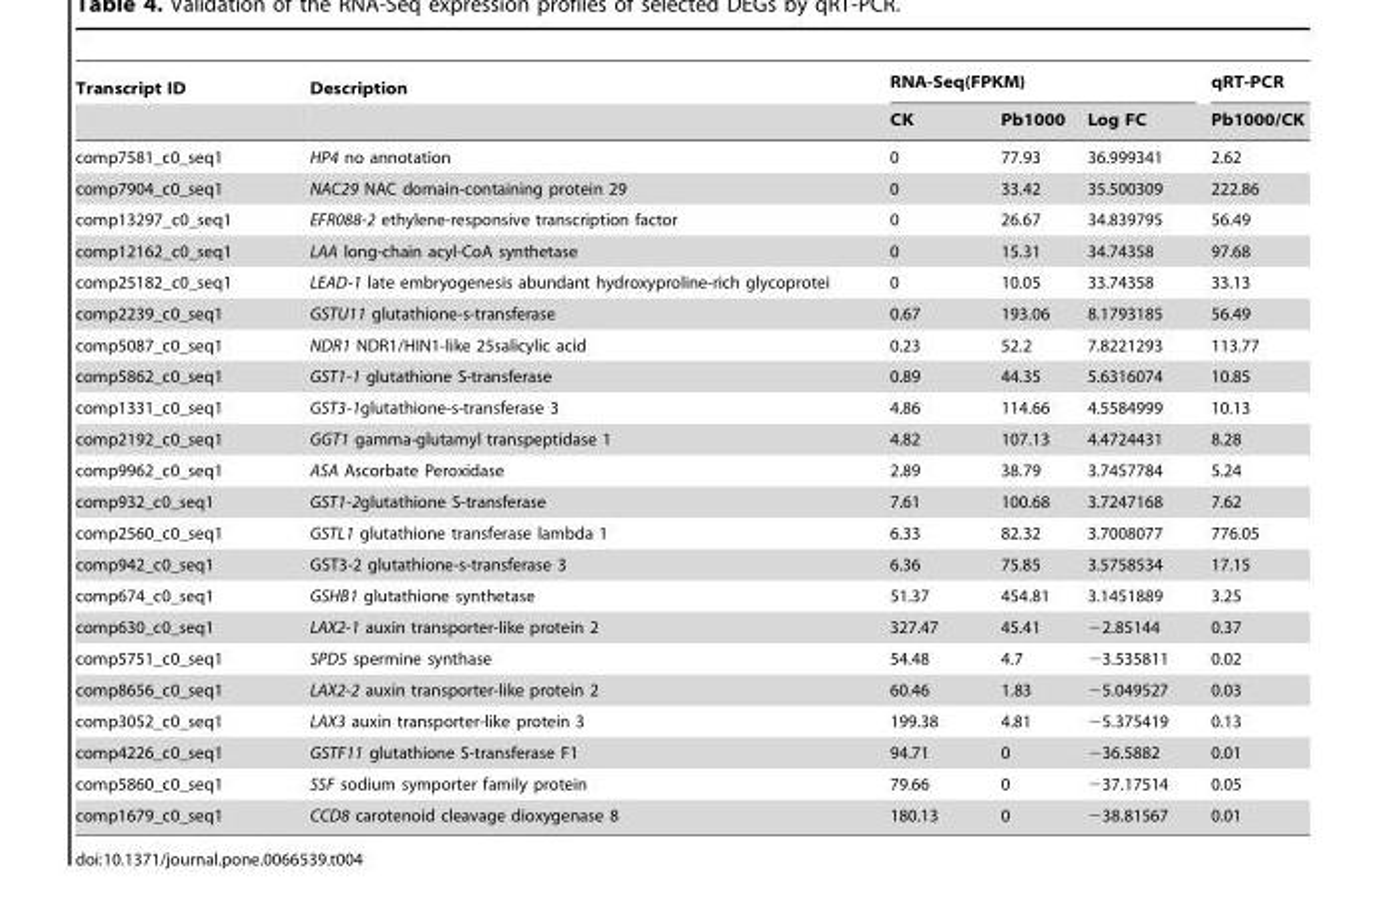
<table><thead><tr><td rowspan="2">Transcript ID</td><td rowspan="2">Description</td><td colspan="3">RNA-Seq(FPKM)</td><td rowspan="2">qRT-PCR Pb1000/CK</td></tr><tr><td>CK</td><td>Pb1000</td><td>Log FC</td></tr></thead><tbody><tr><td>comp7581_c0_seq1</td><td>HP4 no annotation</td><td>0</td><td>77.93</td><td>36.999341</td><td>2.62</td></tr><tr><td>comp7904_c0_seq1</td><td>NAC29 NAC domain-containing protein 29</td><td>0</td><td>33.42</td><td>35.500309</td><td>222.86</td></tr><tr><td>comp13297_c0_seq1</td><td>EFR088-2 ethylene-responsive transcription factor</td><td>0</td><td>26.67</td><td>34.839795</td><td>56.49</td></tr><tr><td>comp12162_c0_seq1</td><td>LAA long-chain acyl-CoA synthetase</td><td>0</td><td>15.31</td><td>34.74358</td><td>97.68</td></tr><tr><td>comp25182_c0_seq1</td><td>LEAD-1 late embryogenesis abundant hydroxyproline-rich glycoprotei</td><td>0</td><td>10.05</td><td>33.74358</td><td>33.13</td></tr><tr><td>comp2239_c0_seq1</td><td>GSTU11 glutathione-s-transferase</td><td>0.67</td><td>193.06</td><td>8.1793185</td><td>56.49</td></tr><tr><td>comp5087_c0_seq1</td><td>NDR1 NDR1/HIN1-like 25salicylic acid</td><td>0.23</td><td>52.2</td><td>7.8221293</td><td>113.77</td></tr><tr><td>comp5862_c0_seq1</td><td>GST1-1 glutathione S-transferase</td><td>0.89</td><td>44.35</td><td>5.6316074</td><td>10.85</td></tr><tr><td>comp1331_c0_seq1</td><td>GST3-1glutathione-s-transferase 3</td><td>4.86</td><td>114.66</td><td>4.5584999</td><td>10.13</td></tr><tr><td>comp2192_c0_seq1</td><td>GGT1 gamma-glutamyl transpeptidase 1</td><td>4.82</td><td>107.13</td><td>4.4724431</td><td>8.28</td></tr><tr><td>comp9962_c0_seq1</td><td>ASA Ascorbate Peroxidase</td><td>2.89</td><td>38.79</td><td>3.7457784</td><td>5.24</td></tr><tr><td>comp932_c0_seq1</td><td>GST1-2glutathione S-transferase</td><td>7.61</td><td>100.68</td><td>3.7247168</td><td>7.62</td></tr><tr><td>comp2560_c0_seq1</td><td>GSTL1 glutathione transferase lambda 1</td><td>6.33</td><td>82.32</td><td>3.7008077</td><td>776.05</td></tr><tr><td>comp942_c0_seq1</td><td>GST3-2 glutathione-s-transferase 3</td><td>6.36</td><td>75.85</td><td>3.5758534</td><td>17.15</td></tr><tr><td>comp674_c0_seq1</td><td>GSHB1 glutathione synthetase</td><td>51.37</td><td>454.81</td><td>3.1451889</td><td>3.25</td></tr><tr><td>comp630_c0_seq1</td><td>LAX2-1 auxin transporter-like protein 2</td><td>327.47</td><td>45.41</td><td>−2.85144</td><td>0.37</td></tr><tr><td>comp5751_c0_seq1</td><td>SPDS spermine synthase</td><td>54.48</td><td>4.7</td><td>−3.535811</td><td>0.02</td></tr><tr><td>comp8656_c0_seq1</td><td>LAX2-2 auxin transporter-like protein 2</td><td>60.46</td><td>1.83</td><td>−5.049527</td><td>0.03</td></tr><tr><td>comp3052_c0_seq1</td><td>LAX3 auxin transporter-like protein 3</td><td>199.38</td><td>4.81</td><td>−5.375419</td><td>0.13</td></tr><tr><td>comp4226_c0_seq1</td><td>GSTF11 glutathione S-transferase F1</td><td>94.71</td><td>0</td><td>−36.5882</td><td>0.01</td></tr><tr><td>comp5860_c0_seq1</td><td>SSF sodium symporter family protein</td><td>79.66</td><td>0</td><td>−37.17514</td><td>0.05</td></tr><tr><td>comp1679_c0_seq1</td><td>CCD8 carotenoid cleavage dioxygenase 8</td><td>180.13</td><td>0</td><td>−38.81567</td><td>0.01</td></tr></tbody></table>